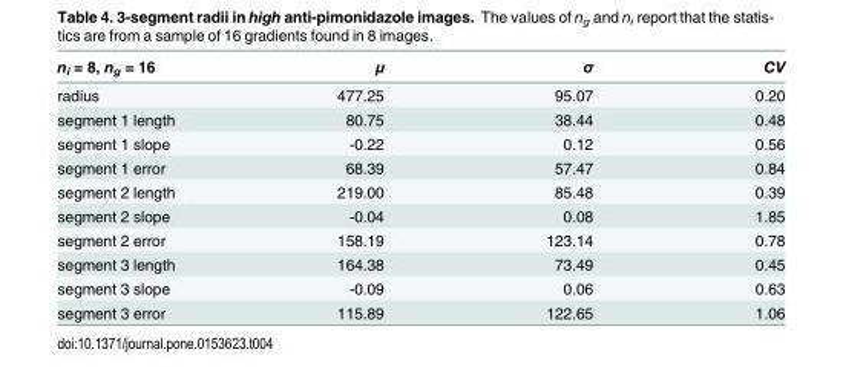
<table><thead><tr><td>n<sub>i</sub> = 8, n<sub>g</sub> = 16</td><td>μ</td><td>σ</td><td>CV</td></tr></thead><tbody><tr><td>radius</td><td>477.25</td><td>95.07</td><td>0.20</td></tr><tr><td>segment 1 length</td><td>80.75</td><td>38.44</td><td>0.48</td></tr><tr><td>segment 1 slope</td><td>-0.22</td><td>0.12</td><td>0.56</td></tr><tr><td>segment 1 error</td><td>68.39</td><td>57.47</td><td>0.84</td></tr><tr><td>segment 2 length</td><td>219.00</td><td>85.48</td><td>0.39</td></tr><tr><td>segment 2 slope</td><td>-0.04</td><td>0.08</td><td>1.85</td></tr><tr><td>segment 2 error</td><td>158.19</td><td>123.14</td><td>0.78</td></tr><tr><td>segment 3 length</td><td>164.38</td><td>73.49</td><td>0.45</td></tr><tr><td>segment 3 slope</td><td>-0.09</td><td>0.06</td><td>0.63</td></tr><tr><td>segment 3 error</td><td>115.89</td><td>122.65</td><td>1.06</td></tr></tbody></table>